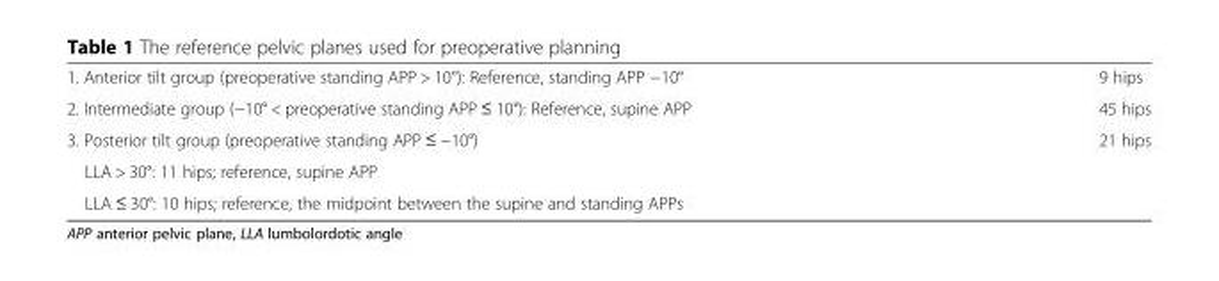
<table><tbody><tr><td>1. Anterior tilt group (preoperative standing APP &gt; 10°): Reference, standing APP −10°</td><td>9 hips</td></tr><tr><td>2. Intermediate group (−10° &lt; preoperative standing APP ≤ 10°): Reference, supine APP</td><td>45 hips</td></tr><tr><td>3. Posterior tilt group (preoperative standing APP ≤ −10°)</td><td>21 hips</td></tr><tr><td colspan="2">LLA &gt; 30°: 11 hips; reference, supine APP</td></tr><tr><td>LLA ≤ 30°: 10 hips; reference, the midpoint between the supine and standing APPs</td><td></td></tr></tbody></table>